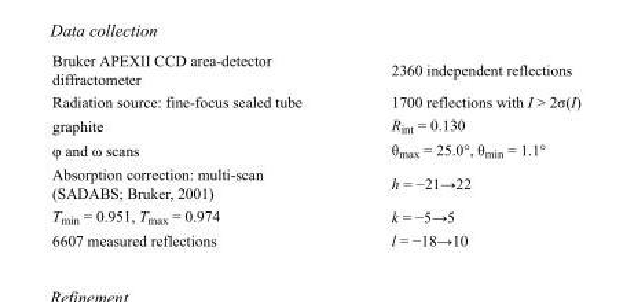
<table><tbody><tr><td>Bruker APEXII CCD area-detector diffractometer</td><td>2360 independent reflections</td></tr><tr><td>Radiation source: fine-focus sealed tube</td><td>1700 reflections with I &gt; 2σ(I)</td></tr><tr><td>graphite</td><td>R<sub>int</sub> = 0.130</td></tr><tr><td>φ and ω scans</td><td>θ<sub>max</sub> = 25.0°, θ<sub>min</sub> = 1.1°</td></tr><tr><td>Absorption correction: multi-scan (SADABS; Bruker, 2001)</td><td>h = −21→22</td></tr><tr><td>T<sub>min</sub> = 0.951, T<sub>max</sub> = 0.974</td><td>k = −5→5</td></tr><tr><td>6607 measured reflections</td><td>l = −18→10</td></tr></tbody></table>